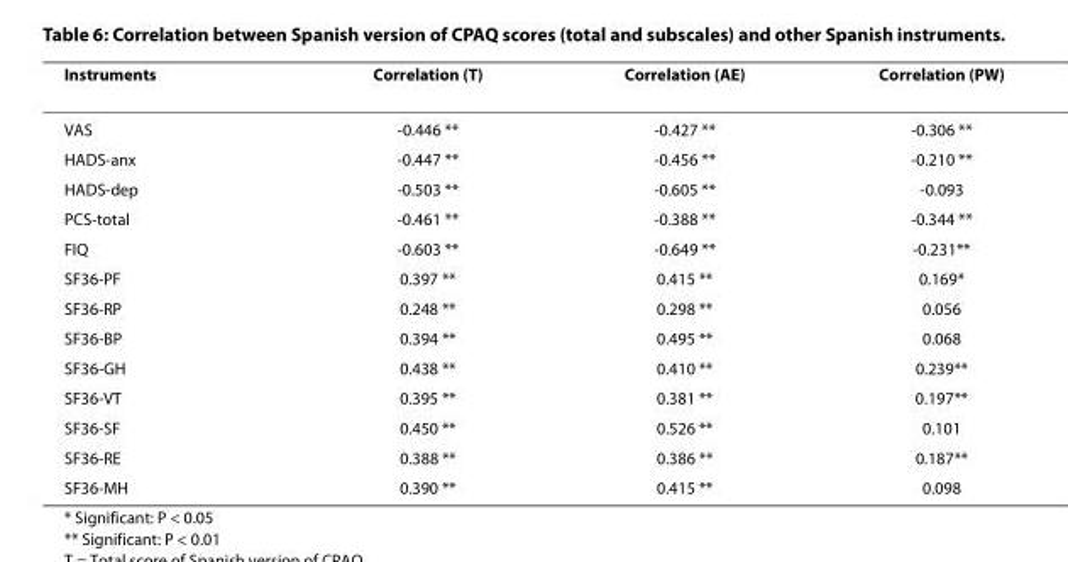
<table><thead><tr><td>Instruments</td><td>Correlation (T)</td><td>Correlation (AE)</td><td>Correlation (PW)</td></tr></thead><tbody><tr><td>VAS</td><td>-0.446 **</td><td>-0.427 **</td><td>-0.306 **</td></tr><tr><td>HADS-anx</td><td>-0.447 **</td><td>-0.456 **</td><td>-0.210 **</td></tr><tr><td>HADS-dep</td><td>-0.503 **</td><td>-0.605 **</td><td>-0.093</td></tr><tr><td>PCS-total</td><td>-0.461 **</td><td>-0.388 **</td><td>-0.344 **</td></tr><tr><td>FIQ</td><td>-0.603 **</td><td>-0.649 **</td><td>-0.231**</td></tr><tr><td>SF36-PF</td><td>0.397 **</td><td>0.415 **</td><td>0.169*</td></tr><tr><td>SF36-RP</td><td>0.248 **</td><td>0.298 **</td><td>0.056</td></tr><tr><td>SF36-BP</td><td>0.394 **</td><td>0.495 **</td><td>0.068</td></tr><tr><td>SF36-GH</td><td>0.438 **</td><td>0.410 **</td><td>0.239**</td></tr><tr><td>SF36-VT</td><td>0.395 **</td><td>0.381 **</td><td>0.197**</td></tr><tr><td>SF36-SF</td><td>0.450 **</td><td>0.526 **</td><td>0.101</td></tr><tr><td>SF36-RE</td><td>0.388 **</td><td>0.386 **</td><td>0.187**</td></tr><tr><td>SF36-MH</td><td>0.390 **</td><td>0.415 **</td><td>0.098</td></tr></tbody></table>